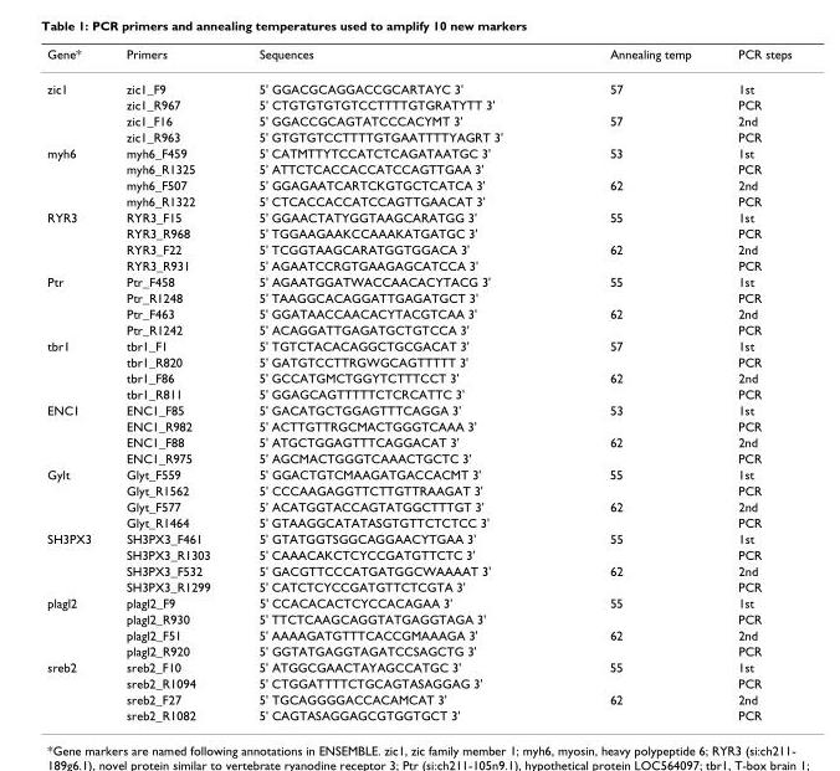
<table><thead><tr><td>Gene*</td><td>Primers</td><td>Sequences</td><td>Annealing temp</td><td>PCR steps</td></tr></thead><tbody><tr><td rowspan="4">zic1</td><td>zic1_F9</td><td>5&#x27; GGACGCAGGACCGCARTAYC 3&#x27;</td><td>57</td><td>1st</td></tr><tr><td>zic1_R967</td><td>5&#x27; CTGTGTGTGTCCTTTTGTGRATYTT 3&#x27;</td><td></td><td>PCR</td></tr><tr><td>zic1_F16</td><td>5&#x27; GGACCGCAGTATCCCACYMT 3&#x27;</td><td>57</td><td>2nd</td></tr><tr><td>zic1_R963</td><td>5&#x27; GTGTGTCCTTTTGTGAATTTTYAGRT 3&#x27;</td><td></td><td>PCR</td></tr><tr><td rowspan="4">myh6</td><td>myh6_F459</td><td>5&#x27; CATMTTYTCCATCTCAGATAATGC 3&#x27;</td><td>53</td><td>1st</td></tr><tr><td>myh6_R1325</td><td>5&#x27; ATTCTCACCACCATCCAGTTGAA 3&#x27;</td><td></td><td>PCR</td></tr><tr><td>myh6_F507</td><td>5&#x27; GGAGAATCARTCKGTGCTCATCA 3&#x27;</td><td>62</td><td>2nd</td></tr><tr><td>myh6_R1322</td><td>5&#x27; CTCACCACCATCCAGTTGAACAT 3&#x27;</td><td></td><td>PCR</td></tr><tr><td rowspan="4">RYR3</td><td>RYR3_F15</td><td>5&#x27; GGAACTATYGGTAAGCARATGG 3&#x27;</td><td>55</td><td>1st</td></tr><tr><td>RYR3_R968</td><td>5&#x27; TGGAAGAAKCCAAAKATGATGC 3&#x27;</td><td></td><td>PCR</td></tr><tr><td>RYR3_F22</td><td>5&#x27; TCGGTAAGCARATGGTGGACA 3&#x27;</td><td>62</td><td>2nd</td></tr><tr><td>RYR3_R931</td><td>5&#x27; AGAATCCRGTGAAGAGCATCCA 3&#x27;</td><td></td><td>PCR</td></tr><tr><td rowspan="4">Ptr</td><td>Ptr_F458</td><td>5&#x27; AGAATGGATWACCAACACYTACG 3&#x27;</td><td>55</td><td>1st</td></tr><tr><td>Ptr_R1248</td><td>5&#x27; TAAGGCACAGGATTGAGATGCT 3&#x27;</td><td></td><td>PCR</td></tr><tr><td>Ptr_F463</td><td>5&#x27; GGATAACCAACACYTACGTCAA 3&#x27;</td><td>62</td><td>2nd</td></tr><tr><td>Ptr_R1242</td><td>5&#x27; ACAGGATTGAGATGCTGTCCA 3&#x27;</td><td></td><td>PCR</td></tr><tr><td rowspan="4">tbr1</td><td>tbr1_F1</td><td>5&#x27; TGTCTACACAGGCTGCGACAT 3&#x27;</td><td>57</td><td>1st</td></tr><tr><td>tbr1_R820</td><td>5&#x27; GATGTCCTTRGWGCAGTTTTT 3&#x27;</td><td></td><td>PCR</td></tr><tr><td>tbr1_F86</td><td>5&#x27; GCCATGMCTGGYTCTTTCCT 3&#x27;</td><td>62</td><td>2nd</td></tr><tr><td>tbr1_R811</td><td>5&#x27; GGAGCAGTTTTTCTCRCATTC 3&#x27;</td><td></td><td>PCR</td></tr><tr><td rowspan="4">ENC1</td><td>ENC1_F85</td><td>5&#x27; GACATGCTGGAGTTTCAGGA 3&#x27;</td><td>53</td><td>1st</td></tr><tr><td>ENC1_R982</td><td>5&#x27; ACTTGTTRGCMACTGGGTCAAA 3&#x27;</td><td></td><td>PCR</td></tr><tr><td>ENC1_F88</td><td>5&#x27; ATGCTGGAGTTTCAGGACAT 3&#x27;</td><td>62</td><td>2nd</td></tr><tr><td>ENC1_R975</td><td>5&#x27; AGCMACTGGGTCAAACTGCTC 3&#x27;</td><td></td><td>PCR</td></tr><tr><td rowspan="4">Gylt</td><td>Glyt_F559</td><td>5&#x27; GGACTGTCMAAGATGACCACMT 3&#x27;</td><td>55</td><td>1st</td></tr><tr><td>Glyt_R1562</td><td>5&#x27; CCCAAGAGGTTCTTGTTRAAGAT 3&#x27;</td><td></td><td>PCR</td></tr><tr><td>Glyt_F577</td><td>5&#x27; ACATGGTACCAGTATGGCTTTGT 3&#x27;</td><td>62</td><td>2nd</td></tr><tr><td>Glyt_R1464</td><td>5&#x27; GTAAGGCATATASGTGTTCTCTCC 3&#x27;</td><td></td><td>PCR</td></tr><tr><td rowspan="4">SH3PX3</td><td>SH3PX3_F461</td><td>5&#x27; GTATGGTSGGCAGGAACYTGAA 3&#x27;</td><td>55</td><td>1st</td></tr><tr><td>SH3PX3_R1303</td><td>5&#x27; CAAACAKCTCYCCGATGTTCTC 3&#x27;</td><td></td><td>PCR</td></tr><tr><td>SH3PX3_F532</td><td>5&#x27; GACGTTCCCATGATGGCWAAAAT 3&#x27;</td><td>62</td><td>2nd</td></tr><tr><td>SH3PX3_R1299</td><td>5&#x27; CATCTCYCCGATGTTCTCGTA 3&#x27;</td><td></td><td>PCR</td></tr><tr><td rowspan="4">plagl2</td><td>plagl2_F9</td><td>5&#x27; CCACACACTCYCCACAGAA 3&#x27;</td><td>55</td><td>1st</td></tr><tr><td>plagl2_R930</td><td>5&#x27; TTCTCAAGCAGGTATGAGGTAGA 3&#x27;</td><td></td><td>PCR</td></tr><tr><td>plagl2_F51</td><td>5&#x27; AAAAGATGTTTCACCGMAAAGA 3&#x27;</td><td>62</td><td>2nd</td></tr><tr><td>plagl2_R920</td><td>5&#x27; GGTATGAGGTAGATCCSAGCTG 3&#x27;</td><td></td><td>PCR</td></tr><tr><td rowspan="4">sreb2</td><td>sreb2_F10</td><td>5&#x27; ATGGCGAACTAYAGCCATGC 3&#x27;</td><td>55</td><td>1st</td></tr><tr><td>sreb2_R1094</td><td>5&#x27; CTGGATTTTCTGCAGTASAGGAG 3&#x27;</td><td></td><td>PCR</td></tr><tr><td>sreb2_F27</td><td>5&#x27; TGCAGGGGACCACAMCAT 3&#x27;</td><td>62</td><td>2nd</td></tr><tr><td>sreb2_R1082</td><td>5&#x27; CAGTASAGGAGCGTGGTGCT 3&#x27;</td><td></td><td>PCR</td></tr></tbody></table>